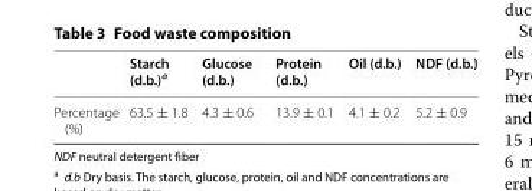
<table><thead><tr><td></td><td>Starch (d.b.)<sup>a</sup></td><td>Glucose (d.b.)</td><td>Protein (d.b.)</td><td>Oil (d.b.)</td><td>NDF (d.b.)</td></tr></thead><tbody><tr><td>Percentage (%)</td><td>63.5 ± 1.8</td><td>4.3 ± 0.6</td><td>13.9 ± 0.1</td><td>4.1 ± 0.2</td><td>5.2 ± 0.9</td></tr></tbody></table>